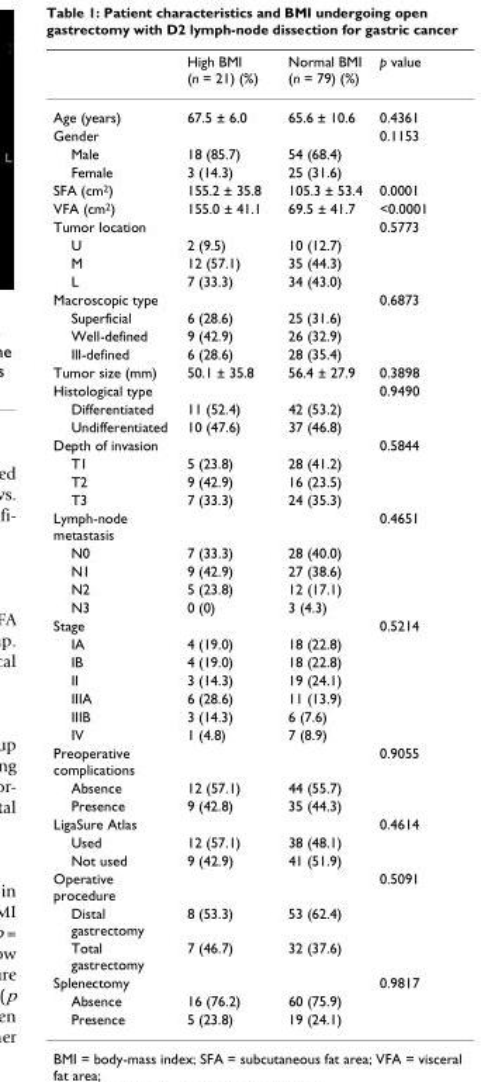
<table><thead><tr><td></td><td>High BMI (n = 21) (%)</td><td>Normal BMI (n = 79) (%)</td><td>p value</td></tr></thead><tbody><tr><td>Age (years)</td><td>67.5 ± 6.0</td><td>65.6 ± 10.6</td><td>0.4361</td></tr><tr><td>Gender</td><td></td><td></td><td>0.1153</td></tr><tr><td>Male</td><td>18 (85.7)</td><td>54 (68.4)</td><td></td></tr><tr><td>Female</td><td>3 (14.3)</td><td>25 (31.6)</td><td></td></tr><tr><td>SFA (cm<sup>2</sup>)</td><td>155.2 ± 35.8</td><td>105.3 ± 53.4</td><td>0.0001</td></tr><tr><td>VFA (cm<sup>2</sup>)</td><td>155.0 ± 41.1</td><td>69.5 ± 41.7</td><td>&lt;0.0001</td></tr><tr><td>Tumor location</td><td></td><td></td><td>0.5773</td></tr><tr><td>U</td><td>2 (9.5)</td><td>10 (12.7)</td><td></td></tr><tr><td>M</td><td>12 (57.1)</td><td>35 (44.3)</td><td></td></tr><tr><td>L</td><td>7 (33.3)</td><td>34 (43.0)</td><td></td></tr><tr><td>Macroscopic type</td><td></td><td></td><td>0.6873</td></tr><tr><td>Superficial</td><td>6 (28.6)</td><td>25 (31.6)</td><td></td></tr><tr><td>Well-defined</td><td>9 (42.9)</td><td>26 (32.9)</td><td></td></tr><tr><td>Ill-defined</td><td>6 (28.6)</td><td>28 (35.4)</td><td></td></tr><tr><td>Tumor size (mm)</td><td>50.1 ± 35.8</td><td>56.4 ± 27.9</td><td>0.3898</td></tr><tr><td>Histological type</td><td></td><td></td><td>0.9490</td></tr><tr><td>Differentiated</td><td>11 (52.4)</td><td>42 (53.2)</td><td></td></tr><tr><td>Undifferentiated</td><td>10 (47.6)</td><td>37 (46.8)</td><td></td></tr><tr><td>Depth of invasion</td><td></td><td></td><td>0.5844</td></tr><tr><td>T1</td><td>5 (23.8)</td><td>28 (41.2)</td><td></td></tr><tr><td>T2</td><td>9 (42.9)</td><td>16 (23.5)</td><td></td></tr><tr><td>T3</td><td>7 (33.3)</td><td>24 (35.3)</td><td></td></tr><tr><td>Lymph-node metastasis</td><td></td><td></td><td>0.4651</td></tr><tr><td>N0</td><td>7 (33.3)</td><td>28 (40.0)</td><td></td></tr><tr><td>N1</td><td>9 (42.9)</td><td>27 (38.6)</td><td></td></tr><tr><td>N2</td><td>5 (23.8)</td><td>12 (17.1)</td><td></td></tr><tr><td>N3</td><td>0 (0)</td><td>3 (4.3)</td><td></td></tr><tr><td>Stage</td><td></td><td></td><td>0.5214</td></tr><tr><td>IA</td><td>4 (19.0)</td><td>18 (22.8)</td><td></td></tr><tr><td>IB</td><td>4 (19.0)</td><td>18 (22.8)</td><td></td></tr><tr><td>II</td><td>3 (14.3)</td><td>19 (24.1)</td><td></td></tr><tr><td>IIIA</td><td>6 (28.6)</td><td>11 (13.9)</td><td></td></tr><tr><td>IIIB</td><td>3 (14.3)</td><td>6 (7.6)</td><td></td></tr><tr><td>IV</td><td>1 (4.8)</td><td>7 (8.9)</td><td></td></tr><tr><td>Preoperative complications</td><td></td><td></td><td>0.9055</td></tr><tr><td>Absence</td><td>12 (57.1)</td><td>44 (55.7)</td><td></td></tr><tr><td>Presence</td><td>9 (42.8)</td><td>35 (44.3)</td><td></td></tr><tr><td>LigaSure Atlas</td><td></td><td></td><td>0.4614</td></tr><tr><td>Used</td><td>12 (57.1)</td><td>38 (48.1)</td><td></td></tr><tr><td>Not used</td><td>9 (42.9)</td><td>41 (51.9)</td><td></td></tr><tr><td>Operative procedure</td><td></td><td></td><td>0.5091</td></tr><tr><td>Distal gastrectomy</td><td>8 (53.3)</td><td>53 (62.4)</td><td></td></tr><tr><td>Total gastrectomy</td><td>7 (46.7)</td><td>32 (37.6)</td><td></td></tr><tr><td>Splenectomy</td><td></td><td></td><td>0.9817</td></tr><tr><td>Absence</td><td>16 (76.2)</td><td>60 (75.9)</td><td></td></tr><tr><td>Presence</td><td>5 (23.8)</td><td>19 (24.1)</td><td></td></tr></tbody></table>